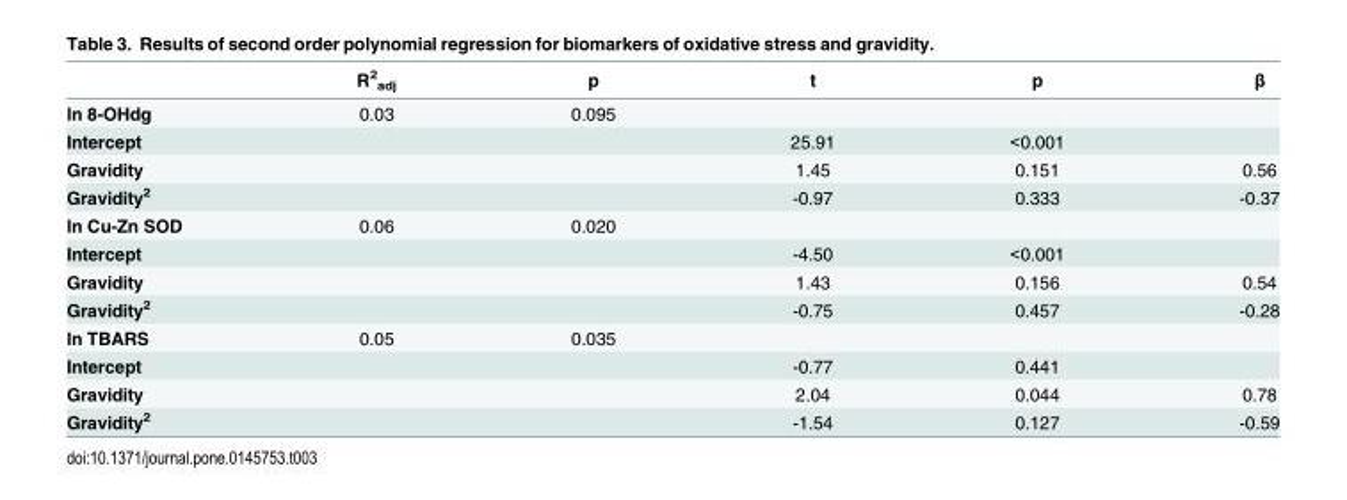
<table><thead><tr><td></td><td>R<sup>2</sup> <sub>adj</sub></td><td>p</td><td>t</td><td>p</td><td>β</td></tr></thead><tbody><tr><td>ln 8-OHdg</td><td>0.03</td><td>0.095</td><td></td><td></td><td></td></tr><tr><td>Intercept</td><td colspan="2"></td><td>25.91</td><td>&lt;0.001</td><td></td></tr><tr><td>Gravidity</td><td colspan="2"></td><td>1.45</td><td>0.151</td><td>0.56</td></tr><tr><td>Gravidity<sup>2</sup></td><td colspan="2"></td><td>-0.97</td><td>0.333</td><td>-0.37</td></tr><tr><td>ln Cu-Zn SOD</td><td>0.06</td><td>0.020</td><td></td><td></td><td></td></tr><tr><td>Intercept</td><td colspan="2"></td><td>-4.50</td><td>&lt;0.001</td><td></td></tr><tr><td>Gravidity</td><td colspan="2"></td><td>1.43</td><td>0.156</td><td>0.54</td></tr><tr><td>Gravidity<sup>2</sup></td><td colspan="2"></td><td>-0.75</td><td>0.457</td><td>-0.28</td></tr><tr><td>ln TBARS</td><td>0.05</td><td>0.035</td><td></td><td></td><td></td></tr><tr><td>Intercept</td><td colspan="2"></td><td>-0.77</td><td>0.441</td><td></td></tr><tr><td>Gravidity</td><td colspan="2"></td><td>2.04</td><td>0.044</td><td>0.78</td></tr><tr><td>Gravidity<sup>2</sup></td><td colspan="2"></td><td>-1.54</td><td>0.127</td><td>-0.59</td></tr></tbody></table>